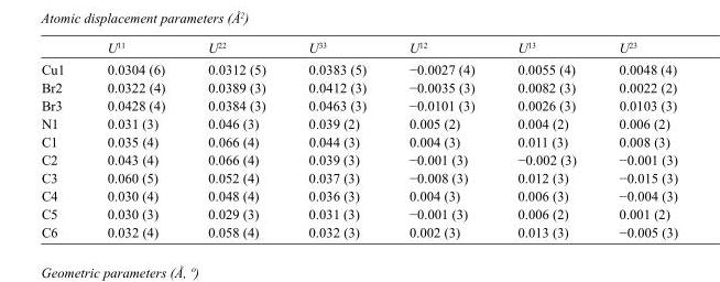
<table><thead><tr><td></td><td>U<sup>11</sup></td><td>U<sup>22</sup></td><td>U<sup>33</sup></td><td>U<sup>12</sup></td><td>U<sup>13</sup></td><td>U<sup>23</sup></td></tr></thead><tbody><tr><td>Cu1</td><td>0.0304 (6)</td><td>0.0312 (5)</td><td>0.0383 (5)</td><td>−0.0027 (4)</td><td>0.0055 (4)</td><td>0.0048 (4)</td></tr><tr><td>Br2</td><td>0.0322 (4)</td><td>0.0389 (3)</td><td>0.0412 (3)</td><td>−0.0035 (3)</td><td>0.0082 (3)</td><td>0.0022 (2)</td></tr><tr><td>Br3</td><td>0.0428 (4)</td><td>0.0384 (3)</td><td>0.0463 (3)</td><td>−0.0101 (3)</td><td>0.0026 (3)</td><td>0.0103 (3)</td></tr><tr><td>N1</td><td>0.031 (3)</td><td>0.046 (3)</td><td>0.039 (2)</td><td>0.005 (2)</td><td>0.004 (2)</td><td>0.006 (2)</td></tr><tr><td>C1</td><td>0.035 (4)</td><td>0.066 (4)</td><td>0.044 (3)</td><td>0.004 (3)</td><td>0.011 (3)</td><td>0.008 (3)</td></tr><tr><td>C2</td><td>0.043 (4)</td><td>0.066 (4)</td><td>0.039 (3)</td><td>−0.001 (3)</td><td>−0.002 (3)</td><td>−0.001 (3)</td></tr><tr><td>C3</td><td>0.060 (5)</td><td>0.052 (4)</td><td>0.037 (3)</td><td>−0.008 (3)</td><td>0.012 (3)</td><td>−0.015 (3)</td></tr><tr><td>C4</td><td>0.030 (4)</td><td>0.048 (4)</td><td>0.036 (3)</td><td>0.004 (3)</td><td>0.006 (3)</td><td>−0.004 (3)</td></tr><tr><td>C5</td><td>0.030 (3)</td><td>0.029 (3)</td><td>0.031 (3)</td><td>−0.001 (3)</td><td>0.006 (2)</td><td>0.001 (2)</td></tr><tr><td>C6</td><td>0.032 (4)</td><td>0.058 (4)</td><td>0.032 (3)</td><td>0.002 (3)</td><td>0.013 (3)</td><td>−0.005 (3)</td></tr></tbody></table>